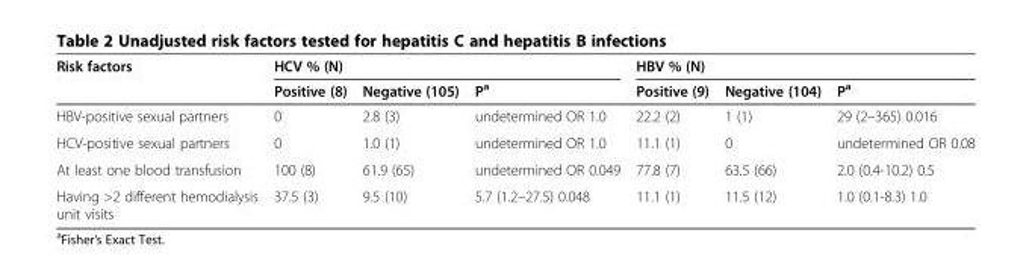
<table><thead><tr><td rowspan="2">Risk factors</td><td colspan="3">HCV % (N)</td><td colspan="3">HBV % (N)</td></tr><tr><td>Positive (8)</td><td>Negative (105)</td><td>P<sup>a</sup></td><td>Positive (9)</td><td>Negative (104)</td><td>P<sup>a</sup></td></tr></thead><tbody><tr><td>HBV-positive sexual partners</td><td>0</td><td>2.8 (3)</td><td>undetermined OR 1.0</td><td>22.2 (2)</td><td>1 (1)</td><td>29 (2–365) 0.016</td></tr><tr><td>HCV-positive sexual partners</td><td>0</td><td>1.0 (1)</td><td>undetermined OR 1.0</td><td>11.1 (1)</td><td>0</td><td>undetermined OR 0.08</td></tr><tr><td>At least one blood transfusion</td><td>100 (8)</td><td>61.9 (65)</td><td>undetermined OR 0.049</td><td>77.8 (7)</td><td>63.5 (66)</td><td>2.0 (0.4-10.2) 0.5</td></tr><tr><td>Having &gt;2 different hemodialysis unit visits</td><td>37.5 (3)</td><td>9.5 (10)</td><td>5.7 (1.2–27.5) 0.048</td><td>11.1 (1)</td><td>11.5 (12)</td><td>1.0 (0.1-8.3) 1.0</td></tr></tbody></table>